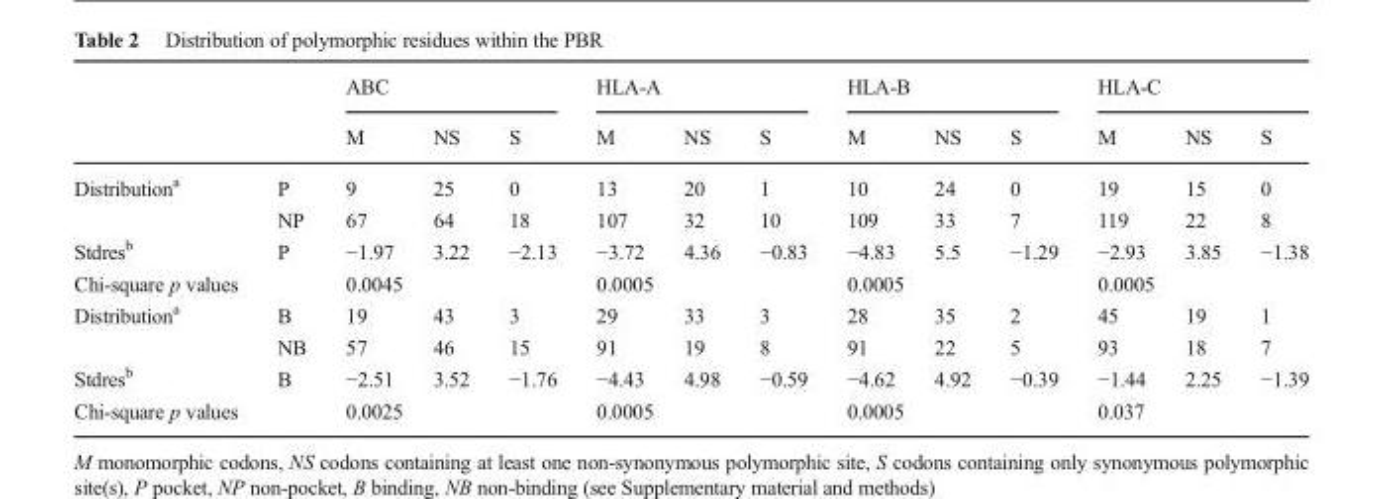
<table><thead><tr><td rowspan="2"></td><td rowspan="2"></td><td colspan="3">ABC</td><td colspan="3">HLA-A</td><td colspan="3">HLA-B</td><td colspan="3">HLA-C</td></tr><tr><td>M</td><td>NS</td><td>S</td><td>M</td><td>NS</td><td>S</td><td>M</td><td>NS</td><td>S</td><td>M</td><td>NS</td><td>S</td></tr></thead><tbody><tr><td rowspan="2">Distribution<sup>a</sup></td><td>P</td><td>9</td><td>25</td><td>0</td><td>13</td><td>20</td><td>1</td><td>10</td><td>24</td><td>0</td><td>19</td><td>15</td><td>0</td></tr><tr><td>NP</td><td>67</td><td>64</td><td>18</td><td>107</td><td>32</td><td>10</td><td>109</td><td>33</td><td>7</td><td>119</td><td>22</td><td>8</td></tr><tr><td>Stdres<sup>b</sup></td><td>P</td><td>−1.97</td><td>3.22</td><td>−2.13</td><td>−3.72</td><td>4.36</td><td>−0.83</td><td>−4.83</td><td>5.5</td><td>−1.29</td><td>−2.93</td><td>3.85</td><td>−1.38</td></tr><tr><td>Chi-square p values</td><td></td><td colspan="3">0.0045</td><td colspan="3">0.0005</td><td colspan="3">0.0005</td><td colspan="3">0.0005</td></tr><tr><td rowspan="2">Distribution<sup>a</sup></td><td>B</td><td>19</td><td>43</td><td>3</td><td>29</td><td>33</td><td>3</td><td>28</td><td>35</td><td>2</td><td>45</td><td>19</td><td>1</td></tr><tr><td>NB</td><td>57</td><td>46</td><td>15</td><td>91</td><td>19</td><td>8</td><td>91</td><td>22</td><td>5</td><td>93</td><td>18</td><td>7</td></tr><tr><td>Stdres<sup>b</sup></td><td>B</td><td>−2.51</td><td>3.52</td><td>−1.76</td><td>−4.43</td><td>4.98</td><td>−0.59</td><td>−4.62</td><td>4.92</td><td>−0.39</td><td>−1.44</td><td>2.25</td><td>−1.39</td></tr><tr><td>Chi-square p values</td><td></td><td colspan="3">0.0025</td><td colspan="3">0.0005</td><td colspan="3">0.0005</td><td colspan="3">0.037</td></tr></tbody></table>